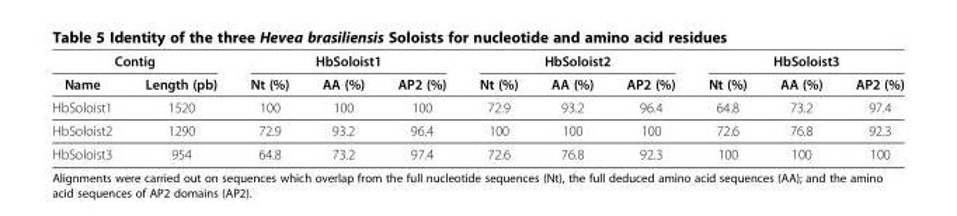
<table><thead><tr><td colspan="2">Contig</td><td colspan="3">HbSoloist1</td><td colspan="3">HbSoloist2</td><td colspan="3">HbSoloist3</td></tr><tr><td>Name</td><td>Length (pb)</td><td>Nt (%)</td><td>AA (%)</td><td>AP2 (%)</td><td>Nt (%)</td><td>AA (%)</td><td>AP2 (%)</td><td>Nt (%)</td><td>AA (%)</td><td>AP2 (%)</td></tr></thead><tbody><tr><td>HbSoloist1</td><td>1520</td><td>100</td><td>100</td><td>100</td><td>72.9</td><td>93.2</td><td>96.4</td><td>64.8</td><td>73.2</td><td>97.4</td></tr><tr><td>HbSoloist2</td><td>1290</td><td>72.9</td><td>93.2</td><td>96.4</td><td>100</td><td>100</td><td>100</td><td>72.6</td><td>76.8</td><td>92.3</td></tr><tr><td>HbSoloist3</td><td>954</td><td>64.8</td><td>73.2</td><td>97.4</td><td>72.6</td><td>76.8</td><td>92.3</td><td>100</td><td>100</td><td>100</td></tr></tbody></table>